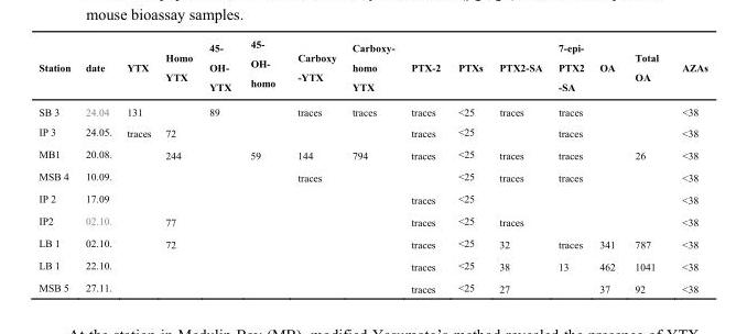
<table><thead><tr><td>Station</td><td>date</td><td>YTX</td><td>Homo YTX</td><td>45- OH- YTX</td><td>45- OH- homo</td><td>Carboxy -YTX</td><td>Carboxy- homo YTX</td><td>PTX-2</td><td>PTXs</td><td>PTX2-SA</td><td>7-epi- PTX2 -SA</td><td>OA</td><td>Total OA</td><td>AZAs</td></tr></thead><tbody><tr><td>SB 3</td><td>24.04</td><td>131</td><td></td><td>89</td><td></td><td>traces</td><td>traces</td><td>traces</td><td>&lt;25</td><td>traces</td><td>traces</td><td></td><td></td><td>&lt;38</td></tr><tr><td>IP 3</td><td>24.05.</td><td>traces</td><td>72</td><td></td><td></td><td></td><td></td><td>traces</td><td>&lt;25</td><td></td><td>traces</td><td></td><td></td><td>&lt;38</td></tr><tr><td>MB1</td><td>20.08.</td><td></td><td>244</td><td></td><td>59</td><td>144</td><td>794</td><td>traces</td><td>&lt;25</td><td>traces</td><td>traces</td><td></td><td>26</td><td>&lt;38</td></tr><tr><td>MSB 4</td><td>10.09.</td><td></td><td></td><td></td><td></td><td>traces</td><td></td><td></td><td>&lt;25</td><td>traces</td><td>traces</td><td></td><td></td><td>&lt;38</td></tr><tr><td>IP 2</td><td>17.09</td><td></td><td></td><td></td><td></td><td></td><td></td><td>traces</td><td>&lt;25</td><td></td><td></td><td></td><td></td><td>&lt;38</td></tr><tr><td>IP2</td><td>02.10.</td><td></td><td>77</td><td></td><td></td><td></td><td></td><td>traces</td><td>&lt;25</td><td>traces</td><td></td><td></td><td></td><td>&lt;38</td></tr><tr><td>LB 1</td><td>02.10.</td><td></td><td>72</td><td></td><td></td><td></td><td></td><td>traces</td><td>&lt;25</td><td>32</td><td>traces</td><td>341</td><td>787</td><td>&lt;38</td></tr><tr><td>LB 1</td><td>22.10.</td><td></td><td></td><td></td><td></td><td></td><td></td><td>traces</td><td>&lt;25</td><td>38</td><td>13</td><td>462</td><td>1041</td><td>&lt;38</td></tr><tr><td>MSB 5</td><td>27.11.</td><td></td><td></td><td></td><td></td><td></td><td></td><td>traces</td><td>&lt;25</td><td>27</td><td></td><td>37</td><td>92</td><td>&lt;38</td></tr></tbody></table>